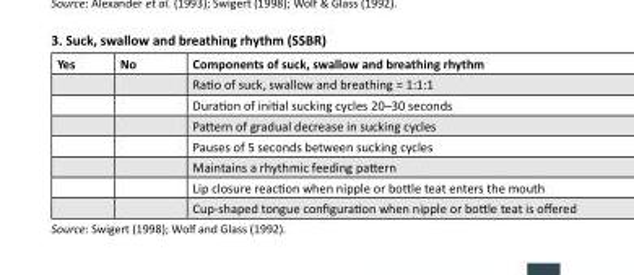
<table><thead><tr><td>Yes</td><td>No</td><td>Components of suck, swallow and breathing rhythm</td></tr></thead><tbody><tr><td></td><td></td><td>Ratio of suck, swallow and breathing = 1:1:1</td></tr><tr><td></td><td></td><td>Duration of initial sucking cycles 20–30 seconds</td></tr><tr><td></td><td></td><td>Pattern of gradual decrease in sucking cycles</td></tr><tr><td></td><td></td><td>Pauses of 5 seconds between sucking cycles</td></tr><tr><td></td><td></td><td>Maintains a rhythmic feeding pattern</td></tr><tr><td></td><td></td><td>Lip closure reaction when nipple or bottle teat enters the mouth</td></tr><tr><td></td><td></td><td>Cup-shaped tongue configuration when nipple or bottle teat is offered</td></tr></tbody></table>